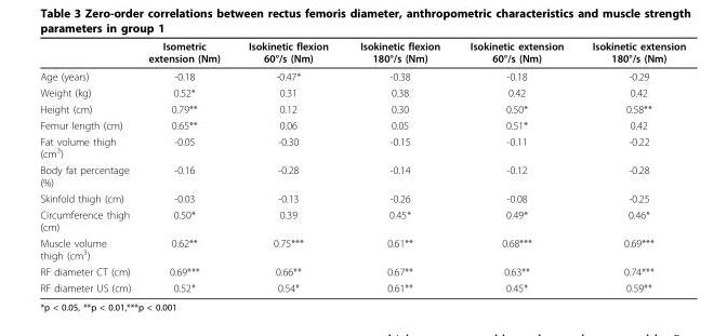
<table><thead><tr><td></td><td>Isometric extension (Nm)</td><td>Isokinetic flexion 60°/s (Nm)</td><td>Isokinetic flexion 180°/s (Nm)</td><td>Isokinetic extension 60°/s (Nm)</td><td>Isokinetic extension 180°/s (Nm)</td></tr></thead><tbody><tr><td>Age (years)</td><td>-0.18</td><td>-0.47*</td><td>-0.38</td><td>-0.18</td><td>-0.29</td></tr><tr><td>Weight (kg)</td><td>0.52*</td><td>0.31</td><td>0.38</td><td>0.42</td><td>0.42</td></tr><tr><td>Height (cm)</td><td>0.79**</td><td>0.12</td><td>0.30</td><td>0.50*</td><td>0.58**</td></tr><tr><td>Femur length (cm)</td><td>0.65**</td><td>0.06</td><td>0.05</td><td>0.51*</td><td>0.42</td></tr><tr><td>Fat volume thigh (cm<sup>3</sup>)</td><td>-0.05</td><td>-0.30</td><td>-0.15</td><td>-0.11</td><td>-0.22</td></tr><tr><td>Body fat percentage (%)</td><td>-0.16</td><td>-0.28</td><td>-0.14</td><td>-0.12</td><td>-0.28</td></tr><tr><td>Skinfold thigh (cm)</td><td>-0.03</td><td>-0.13</td><td>-0.26</td><td>-0.08</td><td>-0.25</td></tr><tr><td>Circumference thigh (cm)</td><td>0.50*</td><td>0.39</td><td>0.45*</td><td>0.49*</td><td>0.46*</td></tr><tr><td>Muscle volume thigh (cm<sup>3</sup>)</td><td>0.62**</td><td>0.75***</td><td>0.61**</td><td>0.68***</td><td>0.69***</td></tr><tr><td>RF diameter CT (cm)</td><td>0.69***</td><td>0.66**</td><td>0.67**</td><td>0.63**</td><td>0.74***</td></tr><tr><td>RF diameter US (cm)</td><td>0.52*</td><td>0.54*</td><td>0.61**</td><td>0.45*</td><td>0.59**</td></tr></tbody></table>